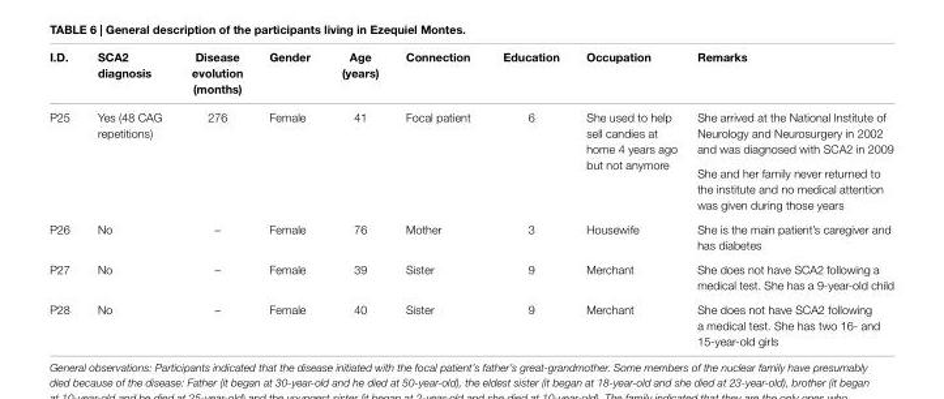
<table><thead><tr><td>i.D.</td><td>sca2 diagnosis</td><td>Disease evolution (months)</td><td>gender</td><td>age (years)</td><td>connection</td><td>education</td><td>Occupation</td><td>remarks</td></tr></thead><tbody><tr><td rowspan="2">P25</td><td rowspan="2">Yes (48 CAG repetitions)</td><td rowspan="2">276</td><td rowspan="2">Female</td><td rowspan="2">41</td><td rowspan="2">Focal patient</td><td rowspan="2">6</td><td rowspan="2">She used to help sell candies at home 4 years ago but not anymore</td><td>She arrived at the National Institute of Neurology and Neurosurgery in 2002 and was diagnosed with SCA2 in 2009</td></tr><tr><td>She and her family never returned to the institute and no medical attention was given during those years</td></tr><tr><td>P26</td><td>No</td><td>–</td><td>Female</td><td>76</td><td>Mother</td><td>3</td><td>Housewife</td><td>She is the main patient’s caregiver and has diabetes</td></tr><tr><td>P27</td><td>No</td><td>–</td><td>Female</td><td>39</td><td>Sister</td><td>9</td><td>Merchant</td><td>She does not have SCA2 following a medical test. She has a 9-year-old child</td></tr><tr><td>P28</td><td>No</td><td>–</td><td>Female</td><td>40</td><td>Sister</td><td>9</td><td>Merchant</td><td>She does not have SCA2 following a medical test. She has two 16- and 15-year-old girls</td></tr></tbody></table>